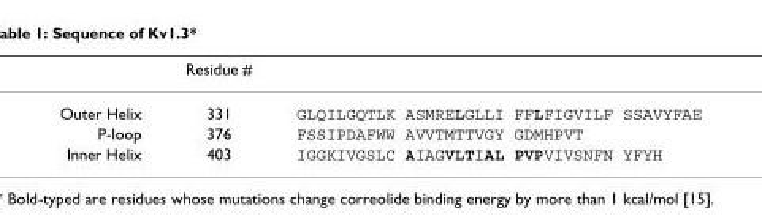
<table><thead><tr><td></td><td>Residue #</td><td></td></tr></thead><tbody><tr><td>Outer Helix</td><td>331</td><td>GLQILGQTLK ASMRELGLLI FFLFIGVILF SSAVYFAE</td></tr><tr><td>P-loop</td><td>376</td><td>FSSIPDAFWW AVVTMTTVGY GDMHPVT</td></tr><tr><td>Inner Helix</td><td>403</td><td>IGGKIVGSLC AIAGVLTIAL PVPVIVSNFN YFYH</td></tr></tbody></table>